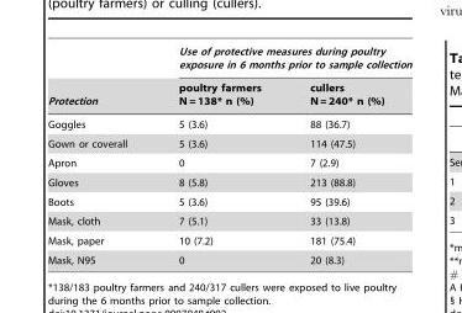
<table><thead><tr><td rowspan="2">Protection</td><td colspan="2">Use of protective measures during poultry exposure in 6 months prior to sample collection</td></tr><tr><td>poultry farmers N = 138* n (%)</td><td>cullers N = 240* n (%)</td></tr></thead><tbody><tr><td>Goggles</td><td>5 (3.6)</td><td>88 (36.7)</td></tr><tr><td>Gown or coverall</td><td>5 (3.6)</td><td>114 (47.5)</td></tr><tr><td>Apron</td><td>0</td><td>7 (2.9)</td></tr><tr><td>Gloves</td><td>8 (5.8)</td><td>213 (88.8)</td></tr><tr><td>Boots</td><td>5 (3.6)</td><td>95 (39.6)</td></tr><tr><td>Mask, cloth</td><td>7 (5.1)</td><td>33 (13.8)</td></tr><tr><td>Mask, paper</td><td>10 (7.2)</td><td>181 (75.4)</td></tr><tr><td>Mask, N95</td><td>0</td><td>20 (8.3)</td></tr></tbody></table>